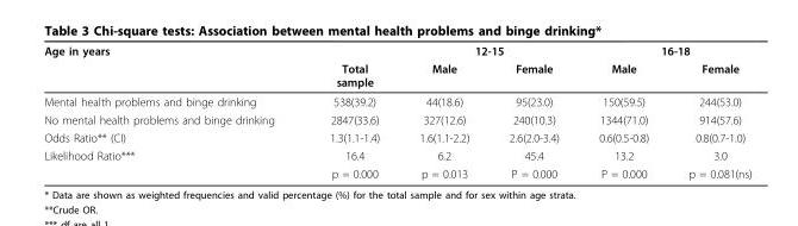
<table><thead><tr><td rowspan="2">Age in years</td><td rowspan="2">Total sample</td><td colspan="2">12-15</td><td colspan="2">16-18</td></tr><tr><td>Male</td><td>Female</td><td>Male</td><td>Female</td></tr></thead><tbody><tr><td>Mental health problems and binge drinking</td><td>538(39.2)</td><td>44(18.6)</td><td>95(23.0)</td><td>150(59.5)</td><td>244(53.0)</td></tr><tr><td>No mental health problems and binge drinking</td><td>2847(33.6)</td><td>327(12.6)</td><td>240(10.3)</td><td>1344(71.0)</td><td>914(57.6)</td></tr><tr><td>Odds Ratio** (CI)</td><td>1.3(1.1-1.4)</td><td>1.6(1.1-2.2)</td><td>2.6(2.0-3.4)</td><td>0.6(0.5-0.8)</td><td>0.8(0.7-1.0)</td></tr><tr><td rowspan="2">Likelihood Ratio***</td><td>16.4</td><td>6.2</td><td>45.4</td><td>13.2</td><td>3.0</td></tr><tr><td>p = 0.000</td><td>p = 0.013</td><td>P = 0.000</td><td>P = 0.000</td><td>p = 0.081(ns)</td></tr></tbody></table>